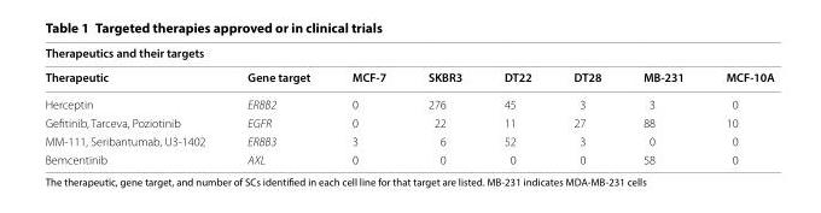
<table><thead><tr><td colspan="8">Therapeutics and their targets</td></tr><tr><td>Therapeutic</td><td>Gene target</td><td>MCF‑7</td><td>SKBR3</td><td>DT22</td><td>DT28</td><td>MB‑231</td><td>MCF‑10A</td></tr></thead><tbody><tr><td>Herceptin</td><td>ERBB2</td><td>0</td><td>276</td><td>45</td><td>3</td><td>3</td><td>0</td></tr><tr><td>Gefitinib, Tarceva, Poziotinib</td><td>EGFR</td><td>0</td><td>22</td><td>11</td><td>27</td><td>88</td><td>10</td></tr><tr><td>MM-111, Seribantumab, U3-1402</td><td>ERBB3</td><td>3</td><td>6</td><td>52</td><td>3</td><td>0</td><td>0</td></tr><tr><td>Bemcentinib</td><td>AXL</td><td>0</td><td>0</td><td>0</td><td>0</td><td>58</td><td>0</td></tr></tbody></table>